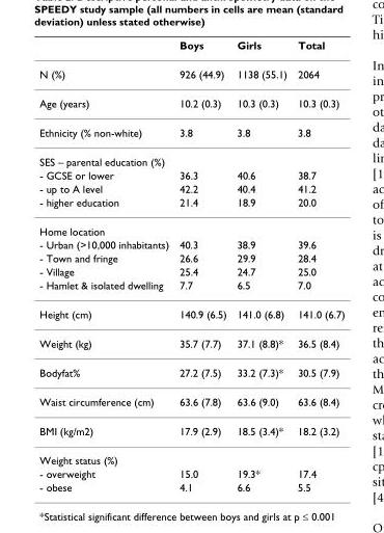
<table><thead><tr><td></td><td>Boys</td><td>Girls</td><td>Total</td></tr></thead><tbody><tr><td>N (%)</td><td>926 (44.9)</td><td>1138 (55.1)</td><td>2064</td></tr><tr><td>Age (years)</td><td>10.2 (0.3)</td><td>10.3 (0.3)</td><td>10.3 (0.3)</td></tr><tr><td>Ethnicity (% non-white)</td><td>3.8</td><td>3.8</td><td>3.8</td></tr><tr><td colspan="4">SES – parental education (%)</td></tr><tr><td>- GCSE or lower</td><td>36.3</td><td>40.6</td><td>38.7</td></tr><tr><td>- up to A level</td><td>42.2</td><td>40.4</td><td>41.2</td></tr><tr><td>- higher education</td><td>21.4</td><td>18.9</td><td>20.0</td></tr><tr><td colspan="4">Home location</td></tr><tr><td>- Urban (&gt;10,000 inhabitants)</td><td>40.3</td><td>38.9</td><td>39.6</td></tr><tr><td>- Town and fringe</td><td>26.6</td><td>29.9</td><td>28.4</td></tr><tr><td>- Village</td><td>25.4</td><td>24.7</td><td>25.0</td></tr><tr><td>- Hamlet &amp; isolated dwelling</td><td>7.7</td><td>6.5</td><td>7.0</td></tr><tr><td>Height (cm)</td><td>140.9 (6.5)</td><td>141.0 (6.8)</td><td>141.0 (6.7)</td></tr><tr><td>Weight (kg)</td><td>35.7 (7.7)</td><td>37.1 (8.8)*</td><td>36.5 (8.4)</td></tr><tr><td>Bodyfat%</td><td>27.2 (7.5)</td><td>33.2 (7.3)*</td><td>30.5 (7.9)</td></tr><tr><td>Waist circumference (cm)</td><td>63.6 (7.8)</td><td>63.6 (9.0)</td><td>63.6 (8.4)</td></tr><tr><td>BMI (kg/m2)</td><td>17.9 (2.9)</td><td>18.5 (3.4)*</td><td>18.2 (3.2)</td></tr><tr><td colspan="4">Weight status (%)</td></tr><tr><td>- overweight</td><td>15.0</td><td>19.3*</td><td>17.4</td></tr><tr><td>- obese</td><td>4.1</td><td>6.6</td><td>5.5</td></tr></tbody></table>